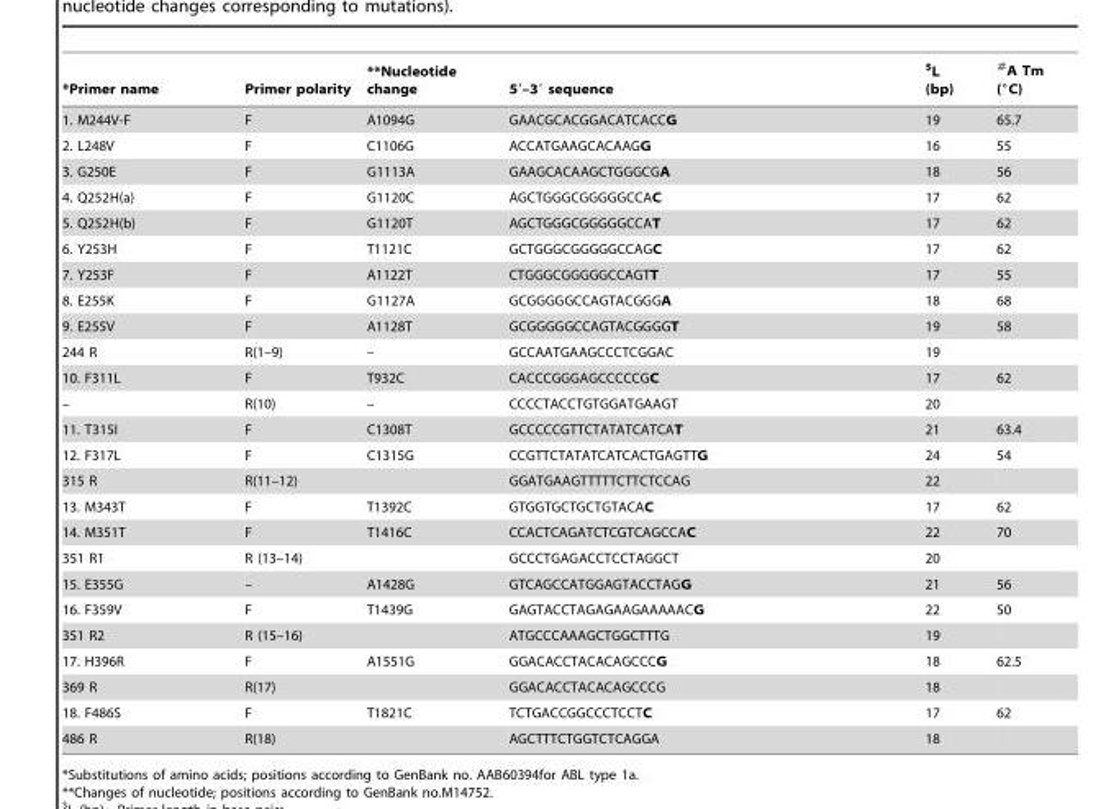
<table><thead><tr><td>*Primer name</td><td>Primer polarity</td><td>**Nucleotide change</td><td>5′–3′ sequence</td><td>$L (bp)</td><td>#A Tm (°C)</td></tr></thead><tbody><tr><td>1. M244V-F</td><td>F</td><td>A1094G</td><td>GAACGCACGGACATCACCG</td><td>19</td><td>65.7</td></tr><tr><td>2. L248V</td><td>F</td><td>C1106G</td><td>ACCATGAAGCACAAGG</td><td>16</td><td>55</td></tr><tr><td>3. G250E</td><td>F</td><td>G1113A</td><td>GAAGCACAAGCTGGGCGA</td><td>18</td><td>56</td></tr><tr><td>4. Q252H(a)</td><td>F</td><td>G1120C</td><td>AGCTGGGCGGGGGCCAC</td><td>17</td><td>62</td></tr><tr><td>5. Q252H(b)</td><td>F</td><td>G1120T</td><td>AGCTGGGCGGGGGCCAT</td><td>17</td><td>62</td></tr><tr><td>6. Y253H</td><td>F</td><td>T1121C</td><td>GCTGGGCGGGGGCCAGC</td><td>17</td><td>62</td></tr><tr><td>7. Y253F</td><td>F</td><td>A1122T</td><td>CTGGGCGGGGGCCAGTT</td><td>17</td><td>55</td></tr><tr><td>8. E255K</td><td>F</td><td>G1127A</td><td>GCGGGGGCCAGTACGGGA</td><td>18</td><td>68</td></tr><tr><td>9. E255V</td><td>F</td><td>A1128T</td><td>GCGGGGGCCAGTACGGGGT</td><td>19</td><td>58</td></tr><tr><td>244 R</td><td>R(1–9)</td><td>–</td><td>GCCAATGAAGCCCTCGGAC</td><td>19</td><td></td></tr><tr><td>10. F311L</td><td>F</td><td>T932C</td><td>CACCCGGGAGCCCCCGC</td><td>17</td><td>62</td></tr><tr><td>–</td><td>R(10)</td><td>–</td><td>CCCCTACCTGTGGATGAAGT</td><td>20</td><td></td></tr><tr><td>11. T315I</td><td>F</td><td>C1308T</td><td>GCCCCCGTTCTATATCATCAT</td><td>21</td><td>63.4</td></tr><tr><td>12. F317L</td><td>F</td><td>C1315G</td><td>CCGTTCTATATCATCACTGAGTTG</td><td>24</td><td>54</td></tr><tr><td>315 R</td><td>R(11–12)</td><td></td><td>GGATGAAGTTTTTCTTCTCCAG</td><td>22</td><td></td></tr><tr><td>13. M343T</td><td>F</td><td>T1392C</td><td>GTGGTGCTGCTGTACAC</td><td>17</td><td>62</td></tr><tr><td>14. M351T</td><td>F</td><td>T1416C</td><td>CCACTCAGATCTCGTCAGCCAC</td><td>22</td><td>70</td></tr><tr><td>351 R1</td><td>R (13–14)</td><td></td><td>GCCCTGAGACCTCCTAGGCT</td><td>20</td><td></td></tr><tr><td>15. E355G</td><td>–</td><td>A1428G</td><td>GTCAGCCATGGAGTACCTAGG</td><td>21</td><td>56</td></tr><tr><td>16. F359V</td><td>F</td><td>T1439G</td><td>GAGTACCTAGAGAAGAAAAACG</td><td>22</td><td>50</td></tr><tr><td>351 R2</td><td>R (15–16)</td><td></td><td>ATGCCCAAAGCTGGCTTTG</td><td>19</td><td></td></tr><tr><td>17. H396R</td><td>F</td><td>A1551G</td><td>GGACACCTACACAGCCCG</td><td>18</td><td>62.5</td></tr><tr><td>369 R</td><td>R(17)</td><td></td><td>GGACACCTACACAGCCCG</td><td>18</td><td></td></tr><tr><td>18. F486S</td><td>F</td><td>T1821C</td><td>TCTGACCGGCCCTCCTC</td><td>17</td><td>62</td></tr><tr><td>486 R</td><td>R(18)</td><td></td><td>AGCTTTCTGGTCTCAGGA</td><td>18</td><td></td></tr></tbody></table>